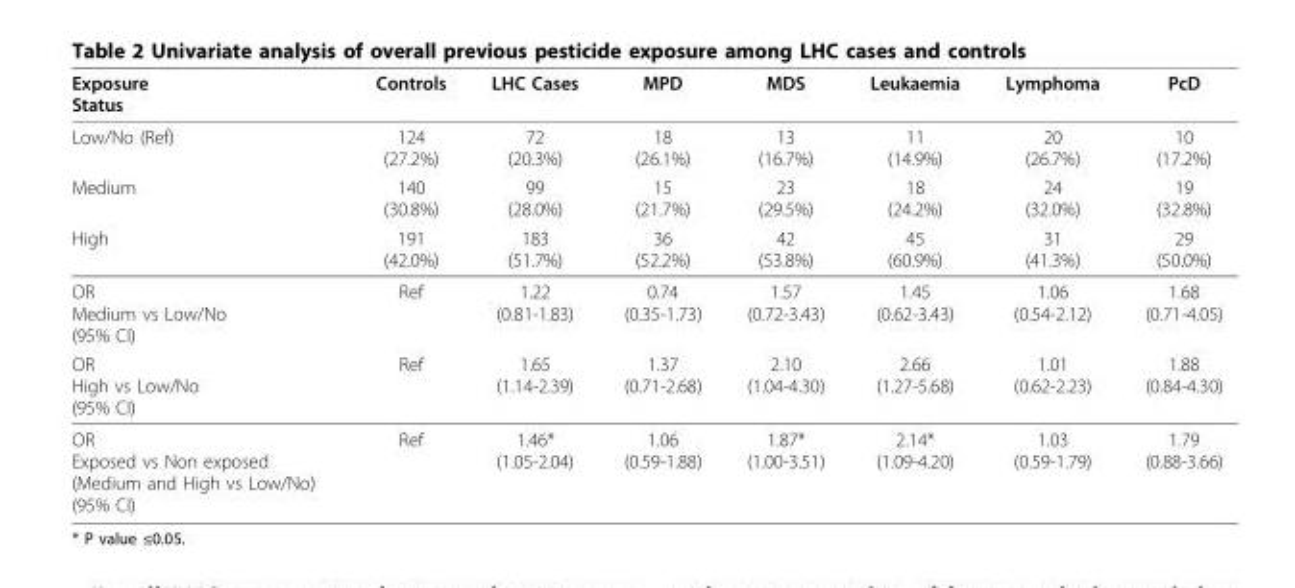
<table><thead><tr><td>Exposure Status</td><td>Controls</td><td>LHC Cases</td><td>MPD</td><td>MDS</td><td>Leukaemia</td><td>Lymphoma</td><td>PcD</td></tr></thead><tbody><tr><td>Low/No (Ref)</td><td>124 (27.2%)</td><td>72 (20.3%)</td><td>18 (26.1%)</td><td>13 (16.7%)</td><td>11 (14.9%)</td><td>20 (26.7%)</td><td>10 (17.2%)</td></tr><tr><td>Medium</td><td>140 (30.8%)</td><td>99 (28.0%)</td><td>15 (21.7%)</td><td>23 (29.5%)</td><td>18 (24.2%)</td><td>24 (32.0%)</td><td>19 (32.8%)</td></tr><tr><td>High</td><td>191 (42.0%)</td><td>183 (51.7%)</td><td>36 (52.2%)</td><td>42 (53.8%)</td><td>45 (60.9%)</td><td>31 (41.3%)</td><td>29 (50.0%)</td></tr><tr><td>OR Medium vs Low/No (95% CI)</td><td>Ref</td><td>1.22 (0.81-1.83)</td><td>0.74 (0.35-1.73)</td><td>1.57 (0.72-3.43)</td><td>1.45 (0.62-3.43)</td><td>1.06 (0.54-2.12)</td><td>1.68 (0.71-4.05)</td></tr><tr><td>OR High vs Low/No (95% CI)</td><td>Ref</td><td>1.65 (1.14-2.39)</td><td>1.37 (0.71-2.68)</td><td>2.10 (1.04-4.30)</td><td>2.66 (1.27-5.68)</td><td>1.01 (0.62-2.23)</td><td>1.88 (0.84-4.30)</td></tr><tr><td>OR Exposed vs Non exposed (Medium and High vs Low/No) (95% CI)</td><td>Ref</td><td>1.46* (1.05-2.04)</td><td>1.06 (0.59-1.88)</td><td>1.87* (1.00-3.51)</td><td>2.14* (1.09-4.20)</td><td>1.03 (0.59-1.79)</td><td>1.79 (0.88-3.66)</td></tr></tbody></table>